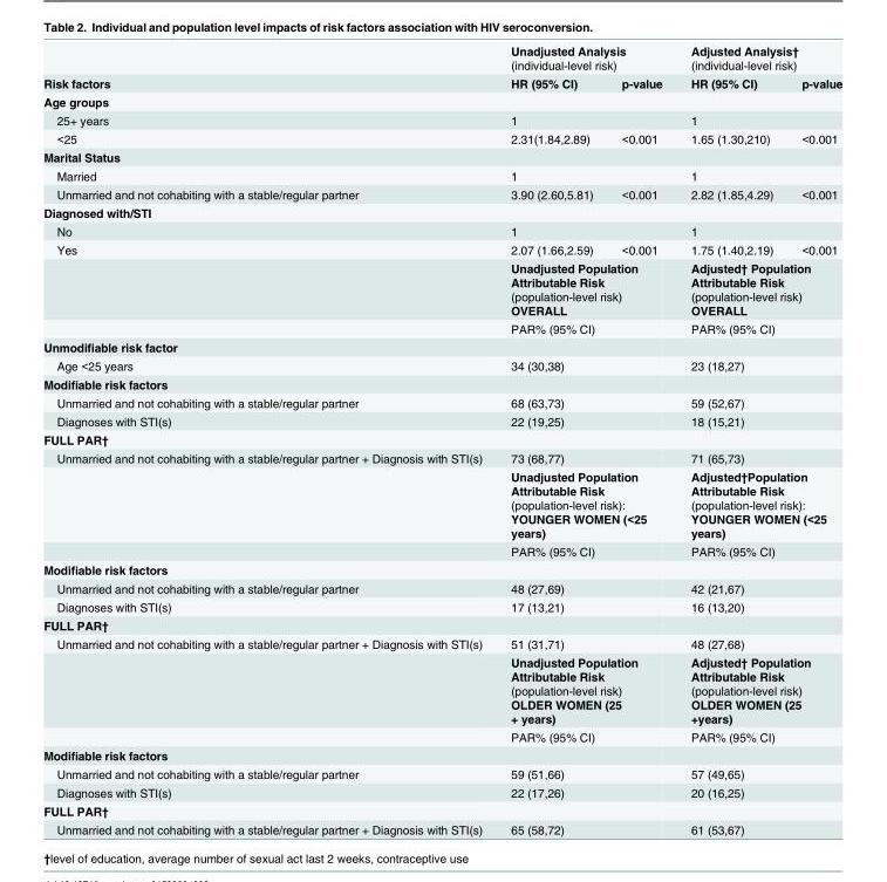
<table><thead><tr><td rowspan="2">Risk factors</td><td colspan="2">Unadjusted Analysis (individual-level risk)</td><td colspan="2">Adjusted Analysis† (individual-level risk)</td></tr><tr><td>HR (95% CI)</td><td>p-value</td><td>HR (95% CI)</td><td>p-value</td></tr></thead><tbody><tr><td colspan="5">Age groups</td></tr><tr><td>25+ years</td><td>1</td><td></td><td>1</td><td></td></tr><tr><td>&lt;25</td><td>2.31(1.84,2.89)</td><td>&lt;0.001</td><td>1.65 (1.30,210)</td><td>&lt;0.001</td></tr><tr><td colspan="5">Marital Status</td></tr><tr><td>Married</td><td>1</td><td></td><td>1</td><td></td></tr><tr><td>Unmarried and not cohabiting with a stable/regular partner</td><td>3.90 (2.60,5.81)</td><td>&lt;0.001</td><td>2.82 (1.85,4.29)</td><td>&lt;0.001</td></tr><tr><td colspan="5">Diagnosed with/STI</td></tr><tr><td>No</td><td>1</td><td></td><td>1</td><td></td></tr><tr><td rowspan="3">Yes</td><td>2.07 (1.66,2.59)</td><td>&lt;0.001</td><td>1.75 (1.40,2.19)</td><td>&lt;0.001</td></tr><tr><td colspan="2">Unadjusted Population Attributable Risk (population-level risk) OVERALL</td><td colspan="2">Adjusted† Population Attributable Risk (population-level risk) OVERALL</td></tr><tr><td colspan="2">PAR% (95% CI)</td><td colspan="2">PAR% (95% CI)</td></tr><tr><td colspan="5">Unmodifiable risk factor</td></tr><tr><td>Age &lt;25 years</td><td colspan="2">34 (30,38)</td><td colspan="2">23 (18,27)</td></tr><tr><td colspan="5">Modifiable risk factors</td></tr><tr><td>Unmarried and not cohabiting with a stable/regular partner</td><td colspan="2">68 (63,73)</td><td colspan="2">59 (52,67)</td></tr><tr><td>Diagnoses with STI(s)</td><td colspan="2">22 (19,25)</td><td colspan="2">18 (15,21)</td></tr><tr><td colspan="5">FULL PAR†</td></tr><tr><td rowspan="3">Unmarried and not cohabiting with a stable/regular partner + Diagnosis with STI(s)</td><td colspan="2">73 (68,77)</td><td colspan="2">71 (65,73)</td></tr><tr><td colspan="2">Unadjusted Population Attributable Risk (population-level risk): YOUNGER WOMEN (&lt;25 years)</td><td colspan="2">Adjusted†Population Attributable Risk (population-level risk): YOUNGER WOMEN (&lt;25 years)</td></tr><tr><td colspan="2">PAR% (95% CI)</td><td colspan="2">PAR% (95% CI)</td></tr><tr><td colspan="5">Modifiable risk factors</td></tr><tr><td>Unmarried and not cohabiting with a stable/regular partner</td><td colspan="2">48 (27,69)</td><td colspan="2">42 (21,67)</td></tr><tr><td>Diagnoses with STI(s)</td><td colspan="2">17 (13,21)</td><td colspan="2">16 (13,20)</td></tr><tr><td colspan="5">FULL PAR†</td></tr><tr><td rowspan="3">Unmarried and not cohabiting with a stable/regular partner + Diagnosis with STI(s)</td><td colspan="2">51 (31,71)</td><td colspan="2">48 (27,68)</td></tr><tr><td colspan="2">Unadjusted Population Attributable Risk (population-level risk) OLDER WOMEN (25 + years)</td><td colspan="2">Adjusted† Population Attributable Risk (population-level risk) OLDER WOMEN (25 +years)</td></tr><tr><td colspan="2">PAR% (95% CI)</td><td colspan="2">PAR% (95% CI)</td></tr><tr><td colspan="5">Modifiable risk factors</td></tr><tr><td>Unmarried and not cohabiting with a stable/regular partner</td><td colspan="2">59 (51,66)</td><td colspan="2">57 (49,65)</td></tr><tr><td>Diagnoses with STI(s)</td><td colspan="2">22 (17,26)</td><td colspan="2">20 (16,25)</td></tr><tr><td colspan="5">FULL PAR†</td></tr><tr><td>Unmarried and not cohabiting with a stable/regular partner + Diagnosis with STI(s)</td><td colspan="2">65 (58,72)</td><td colspan="2">61 (53,67)</td></tr></tbody></table>